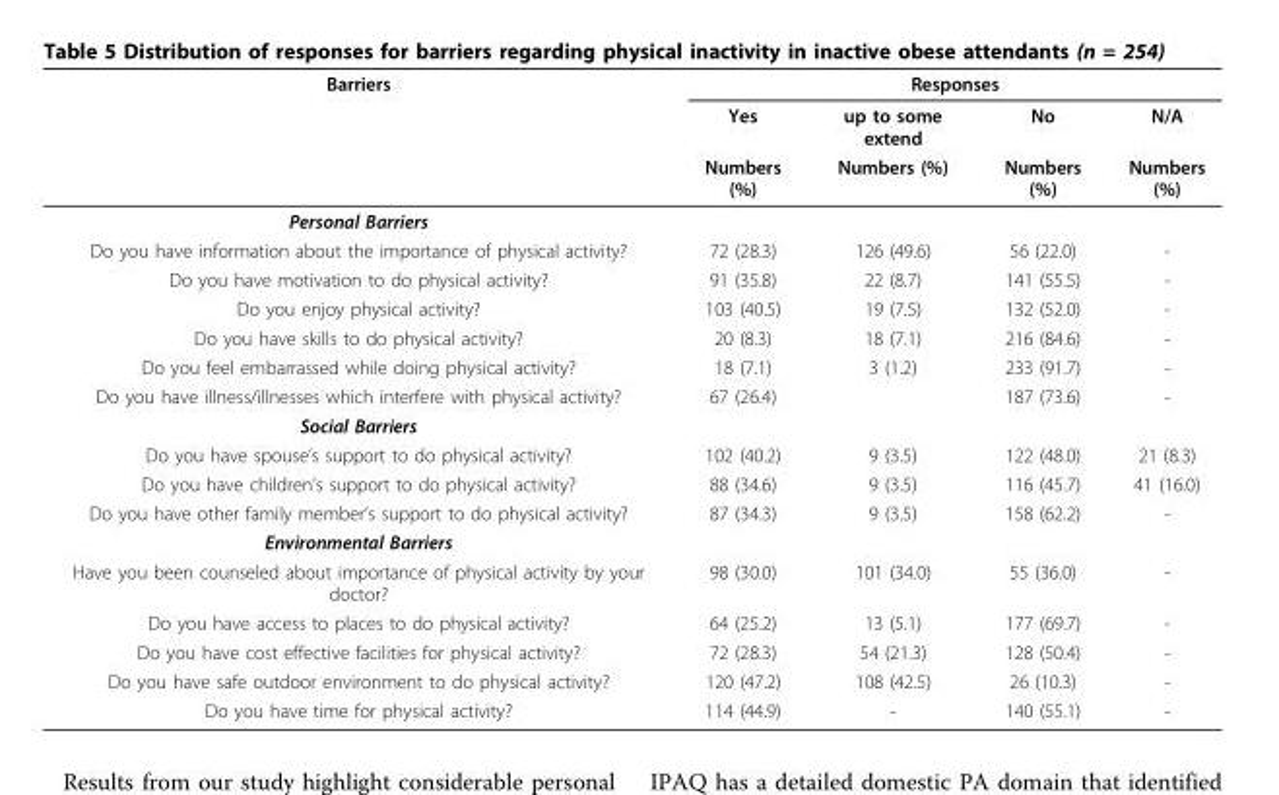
<table><thead><tr><td rowspan="3">Barriers</td><td colspan="4">Responses</td></tr><tr><td rowspan="2">Yes Numbers (%)</td><td rowspan="2">up to some extend Numbers (%)</td><td rowspan="2">No Numbers (%)</td><td rowspan="2">N/A Numbers (%)</td></tr><tr></tr></thead><tbody><tr><td colspan="5">Personal Barriers</td></tr><tr><td>Do you have information about the importance of physical activity?</td><td>72 (28.3)</td><td>126 (49.6)</td><td>56 (22.0)</td><td>-</td></tr><tr><td>Do you have motivation to do physical activity?</td><td>91 (35.8)</td><td>22 (8.7)</td><td>141 (55.5)</td><td>-</td></tr><tr><td>Do you enjoy physical activity?</td><td>103 (40.5)</td><td>19 (7.5)</td><td>132 (52.0)</td><td>-</td></tr><tr><td>Do you have skills to do physical activity?</td><td>20 (8.3)</td><td>18 (7.1)</td><td>216 (84.6)</td><td>-</td></tr><tr><td>Do you feel embarrassed while doing physical activity?</td><td>18 (7.1)</td><td>3 (1.2)</td><td>233 (91.7)</td><td>-</td></tr><tr><td>Do you have illness/illnesses which interfere with physical activity?</td><td>67 (26.4)</td><td></td><td>187 (73.6)</td><td>-</td></tr><tr><td colspan="5">Social Barriers</td></tr><tr><td>Do you have spouse’s support to do physical activity?</td><td>102 (40.2)</td><td>9 (3.5)</td><td>122 (48.0)</td><td>21 (8.3)</td></tr><tr><td>Do you have children’s support to do physical activity?</td><td>88 (34.6)</td><td>9 (3.5)</td><td>116 (45.7)</td><td>41 (16.0)</td></tr><tr><td>Do you have other family member’s support to do physical activity?</td><td>87 (34.3)</td><td>9 (3.5)</td><td>158 (62.2)</td><td>-</td></tr><tr><td colspan="5">Environmental Barriers</td></tr><tr><td>Have you been counseled about importance of physical activity by your doctor?</td><td>98 (30.0)</td><td>101 (34.0)</td><td>55 (36.0)</td><td>-</td></tr><tr><td>Do you have access to places to do physical activity?</td><td>64 (25.2)</td><td>13 (5.1)</td><td>177 (69.7)</td><td>-</td></tr><tr><td>Do you have cost effective facilities for physical activity?</td><td>72 (28.3)</td><td>54 (21.3)</td><td>128 (50.4)</td><td>-</td></tr><tr><td>Do you have safe outdoor environment to do physical activity?</td><td>120 (47.2)</td><td>108 (42.5)</td><td>26 (10.3)</td><td>-</td></tr><tr><td>Do you have time for physical activity?</td><td>114 (44.9)</td><td>-</td><td>140 (55.1)</td><td>-</td></tr></tbody></table>